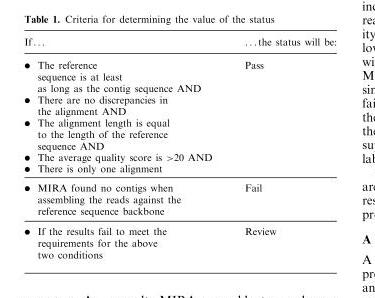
<table><thead><tr><td>. .</td><td>. . . the status will be:</td></tr></thead><tbody><tr><td>The reference sequence is at least as long as the contig sequence AND There are no discrepancies in the alignment AND The alignment length is equal to the length of the reference sequence AND The average quality score is &gt;20 AND There is only one alignment</td><td>Pass</td></tr><tr><td>MIRA found no contigs when assembling the reads against the reference sequence backbone</td><td>Fail</td></tr><tr><td>If the results fail to meet the requirements for the above two conditions</td><td>Review</td></tr></tbody></table>